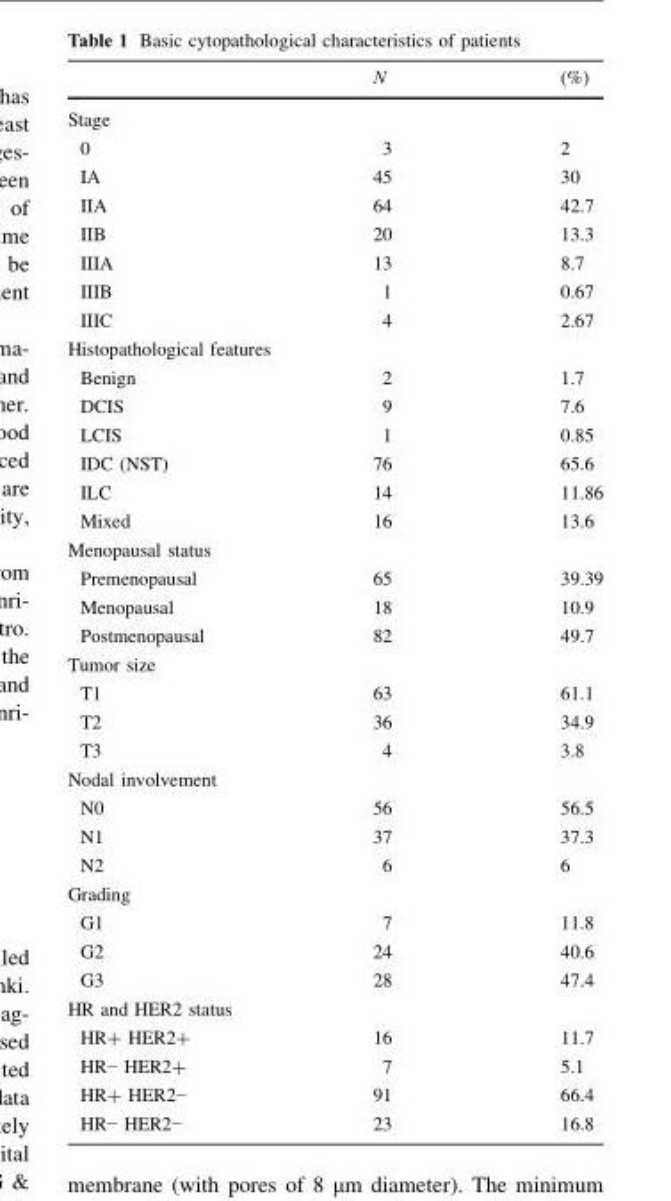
<table><thead><tr><td></td><td>N</td><td>(%)</td></tr></thead><tbody><tr><td colspan="3">Stage</td></tr><tr><td>0</td><td>3</td><td>2</td></tr><tr><td>IA</td><td>45</td><td>30</td></tr><tr><td>IIA</td><td>64</td><td>42.7</td></tr><tr><td>IIB</td><td>20</td><td>13.3</td></tr><tr><td>IIIA</td><td>13</td><td>8.7</td></tr><tr><td>IIIB</td><td>1</td><td>0.67</td></tr><tr><td>IIIC</td><td>4</td><td>2.67</td></tr><tr><td colspan="3">Histopathological features</td></tr><tr><td>Benign</td><td>2</td><td>1.7</td></tr><tr><td>DCIS</td><td>9</td><td>7.6</td></tr><tr><td>LCIS</td><td>1</td><td>0.85</td></tr><tr><td>IDC (NST)</td><td>76</td><td>65.6</td></tr><tr><td>ILC</td><td>14</td><td>11.86</td></tr><tr><td>Mixed</td><td>16</td><td>13.6</td></tr><tr><td colspan="3">Menopausal status</td></tr><tr><td>Premenopausal</td><td>65</td><td>39.39</td></tr><tr><td>Menopausal</td><td>18</td><td>10.9</td></tr><tr><td>Postmenopausal</td><td>82</td><td>49.7</td></tr><tr><td colspan="3">Tumor size</td></tr><tr><td>T1</td><td>63</td><td>61.1</td></tr><tr><td>T2</td><td>36</td><td>34.9</td></tr><tr><td>T3</td><td>4</td><td>3.8</td></tr><tr><td colspan="3">Nodal involvement</td></tr><tr><td>N0</td><td>56</td><td>56.5</td></tr><tr><td>N1</td><td>37</td><td>37.3</td></tr><tr><td>N2</td><td>6</td><td>6</td></tr><tr><td colspan="3">Grading</td></tr><tr><td>G1</td><td>7</td><td>11.8</td></tr><tr><td>G2</td><td>24</td><td>40.6</td></tr><tr><td>G3</td><td>28</td><td>47.4</td></tr><tr><td colspan="3">HR and HER2 status</td></tr><tr><td>HR+ HER2+</td><td>16</td><td>11.7</td></tr><tr><td>HR− HER2+</td><td>7</td><td>5.1</td></tr><tr><td>HR+ HER2−</td><td>91</td><td>66.4</td></tr><tr><td>HR− HER2−</td><td>23</td><td>16.8</td></tr></tbody></table>